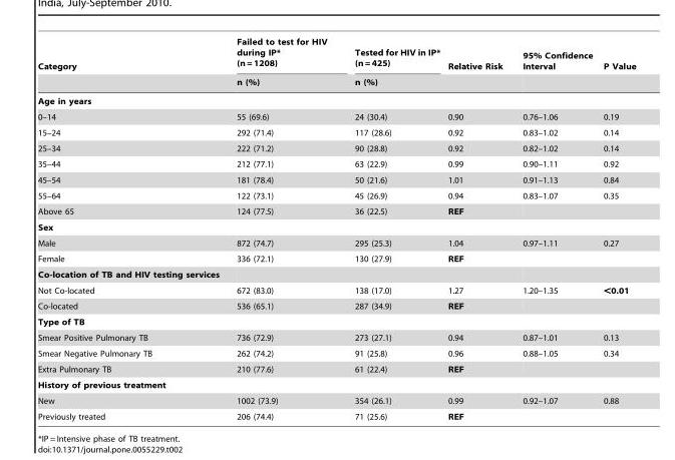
<table><thead><tr><td rowspan="2">Category</td><td rowspan="2">Failed to test for HIV during IP* (n = 1208) n (%)</td><td rowspan="2">Tested for HIV in IP* (n = 425) n (%)</td><td rowspan="2">Relative Risk</td><td rowspan="2">95% Confidence Interval</td><td rowspan="2">P Value</td></tr><tr></tr></thead><tbody><tr><td colspan="6">Age in years</td></tr><tr><td>0–14</td><td>55 (69.6)</td><td>24 (30.4)</td><td>0.90</td><td>0.76–1.06</td><td>0.19</td></tr><tr><td>15–24</td><td>292 (71.4)</td><td>117 (28.6)</td><td>0.92</td><td>0.83–1.02</td><td>0.14</td></tr><tr><td>25–34</td><td>222 (71.2)</td><td>90 (28.8)</td><td>0.92</td><td>0.82–1.02</td><td>0.14</td></tr><tr><td>35–44</td><td>212 (77.1)</td><td>63 (22.9)</td><td>0.99</td><td>0.90–1.11</td><td>0.92</td></tr><tr><td>45–54</td><td>181 (78.4)</td><td>50 (21.6)</td><td>1.01</td><td>0.91–1.13</td><td>0.84</td></tr><tr><td>55–64</td><td>122 (73.1)</td><td>45 (26.9)</td><td>0.94</td><td>0.83–1.07</td><td>0.35</td></tr><tr><td>Above 65</td><td>124 (77.5)</td><td>36 (22.5)</td><td>REF</td><td></td><td></td></tr><tr><td colspan="6">Sex</td></tr><tr><td>Male</td><td>872 (74.7)</td><td>295 (25.3)</td><td>1.04</td><td>0.97–1.11</td><td>0.27</td></tr><tr><td>Female</td><td>336 (72.1)</td><td>130 (27.9)</td><td>REF</td><td></td><td></td></tr><tr><td colspan="6">Co-location of TB and HIV testing services</td></tr><tr><td>Not Co-located</td><td>672 (83.0)</td><td>138 (17.0)</td><td>1.27</td><td>1.20–1.35</td><td>&lt;0.01</td></tr><tr><td>Co-located</td><td>536 (65.1)</td><td>287 (34.9)</td><td>REF</td><td></td><td></td></tr><tr><td colspan="6">Type of TB</td></tr><tr><td>Smear Positive Pulmonary TB</td><td>736 (72.9)</td><td>273 (27.1)</td><td>0.94</td><td>0.87–1.01</td><td>0.13</td></tr><tr><td>Smear Negative Pulmonary TB</td><td>262 (74.2)</td><td>91 (25.8)</td><td>0.96</td><td>0.88–1.05</td><td>0.34</td></tr><tr><td>Extra Pulmonary TB</td><td>210 (77.6)</td><td>61 (22.4)</td><td>REF</td><td></td><td></td></tr><tr><td colspan="6">History of previous treatment</td></tr><tr><td>New</td><td>1002 (73.9)</td><td>354 (26.1)</td><td>0.99</td><td>0.92–1.07</td><td>0.88</td></tr><tr><td>Previously treated</td><td>206 (74.4)</td><td>71 (25.6)</td><td>REF</td><td></td><td></td></tr></tbody></table>